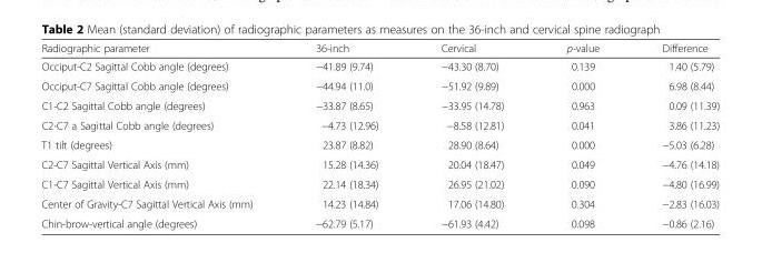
<table><thead><tr><td>Radiographic parameter</td><td>36-inch</td><td>Cervical</td><td>p-value</td><td>Difference</td></tr></thead><tbody><tr><td>Occiput-C2 Sagittal Cobb angle (degrees)</td><td>−41.89 (9.74)</td><td>−43.30 (8.70)</td><td>0.139</td><td>1.40 (5.79)</td></tr><tr><td>Occiput-C7 Sagittal Cobb angle (degrees)</td><td>−44.94 (11.0)</td><td>−51.92 (9.89)</td><td>0.000</td><td>6.98 (8.44)</td></tr><tr><td>C1-C2 Sagittal Cobb angle (degrees)</td><td>−33.87 (8.65)</td><td>−33.95 (14.78)</td><td>0.963</td><td>0.09 (11.39)</td></tr><tr><td>C2-C7 a Sagittal Cobb angle (degrees)</td><td>−4.73 (12.96)</td><td>−8.58 (12.81)</td><td>0.041</td><td>3.86 (11.23)</td></tr><tr><td>T1 tilt (degrees)</td><td>23.87 (8.82)</td><td>28.90 (8.64)</td><td>0.000</td><td>−5.03 (6.28)</td></tr><tr><td>C2-C7 Sagittal Vertical Axis (mm)</td><td>15.28 (14.36)</td><td>20.04 (18.47)</td><td>0.049</td><td>−4.76 (14.18)</td></tr><tr><td>C1-C7 Sagittal Vertical Axis (mm)</td><td>22.14 (18.34)</td><td>26.95 (21.02)</td><td>0.090</td><td>−4.80 (16.99)</td></tr><tr><td>Center of Gravity-C7 Sagittal Vertical Axis (mm)</td><td>14.23 (14.84)</td><td>17.06 (14.80)</td><td>0.304</td><td>−2.83 (16.03)</td></tr><tr><td>Chin-brow-vertical angle (degrees)</td><td>−62.79 (5.17)</td><td>−61.93 (4.42)</td><td>0.098</td><td>−0.86 (2.16)</td></tr></tbody></table>